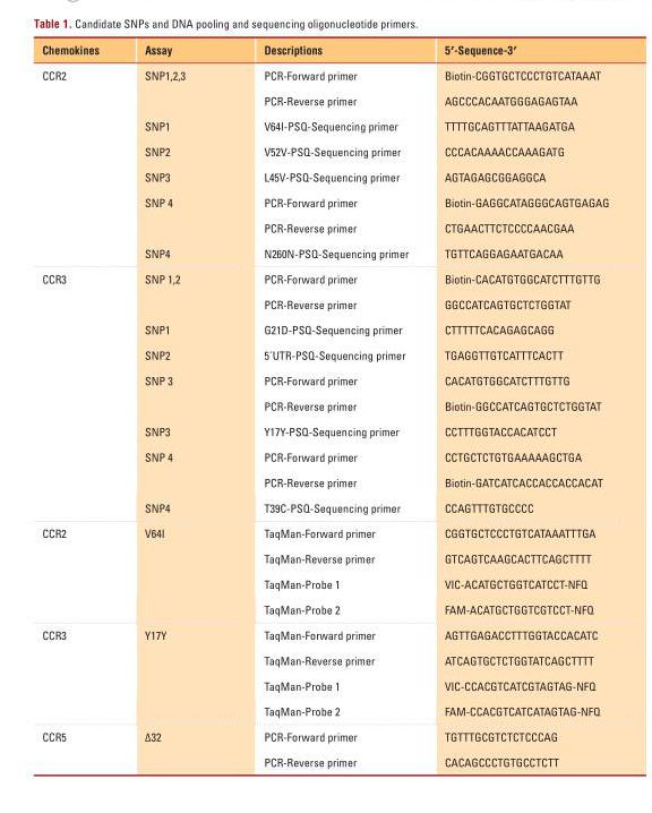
<table><thead><tr><td>Chemokines</td><td>Assay</td><td>Descriptions</td><td>5′-Sequence-3′</td></tr></thead><tbody><tr><td rowspan="8">CCR2</td><td>SNP1,2,3</td><td>PCR-Forward primer</td><td>Biotin-CGGTGCTCCCTGTCATAAAT</td></tr><tr><td></td><td>PCR-Reverse primer</td><td>AGCCCACAATGGGAGAGTAA</td></tr><tr><td>SNP1</td><td>V64I-PSQ-Sequencing primer</td><td>TTTTGCAGTTTATTAAGATGA</td></tr><tr><td>SNP2</td><td>V52V-PSQ-Sequencing primer</td><td>CCCACAAAACCAAAGATG</td></tr><tr><td>SNP3</td><td>L45V-PSQ-Sequencing primer</td><td>AGTAGAGCGGAGGCA</td></tr><tr><td>SNP 4</td><td>PCR-Forward primer</td><td>Biotin-GAGGCATAGGGCAGTGAGAG</td></tr><tr><td></td><td>PCR-Reverse primer</td><td>CTGAACTTCTCCCCAACGAA</td></tr><tr><td>SNP4</td><td>N260N-PSQ-Sequencing primer</td><td>TGTTCAGGAGAATGACAA</td></tr><tr><td rowspan="10">CCR3</td><td>SNP 1,2</td><td>PCR-Forward primer</td><td>Biotin-CACATGTGGCATCTTTGTTG</td></tr><tr><td></td><td>PCR-Reverse primer</td><td>GGCCATCAGTGCTCTGGTAT</td></tr><tr><td>SNP1</td><td>G21D-PSQ-Sequencing primer</td><td>CTTTTTCACAGAGCAGG</td></tr><tr><td>SNP2</td><td>5´UTR-PSQ-Sequencing primer</td><td>TGAGGTTGTCATTTCACTT</td></tr><tr><td>SNP 3</td><td>PCR-Forward primer</td><td>CACATGTGGCATCTTTGTTG</td></tr><tr><td></td><td>PCR-Reverse primer</td><td>Biotin-GGCCATCAGTGCTCTGGTAT</td></tr><tr><td>SNP3</td><td>Y17Y-PSQ-Sequencing primer</td><td>CCTTTGGTACCACATCCT</td></tr><tr><td>SNP 4</td><td>PCR-Forward primer</td><td>CCTGCTCTGTGAAAAAGCTGA</td></tr><tr><td></td><td>PCR-Reverse primer</td><td>Biotin-GATCATCACCACCACCACAT</td></tr><tr><td>SNP4</td><td>T39C-PSQ-Sequencing primer</td><td>CCAGTTTGTGCCCC</td></tr><tr><td rowspan="4">CCR2</td><td>V64I</td><td>TaqMan-Forward primer</td><td>CGGTGCTCCCTGTCATAAATTTGA</td></tr><tr><td></td><td>TaqMan-Reverse primer</td><td>GTCAGTCAAGCACTTCAGCTTTT</td></tr><tr><td></td><td>TaqMan-Probe 1</td><td>VIC-ACATGCTGGTCATCCT-NFQ</td></tr><tr><td></td><td>TaqMan-Probe 2</td><td>FAM-ACATGCTGGTCGTCCT-NFQ</td></tr><tr><td rowspan="4">CCR3</td><td>Y17Y</td><td>TaqMan-Forward primer</td><td>AGTTGAGACCTTTGGTACCACATC</td></tr><tr><td></td><td>TaqMan-Reverse primer</td><td>ATCAGTGCTCTGGTATCAGCTTTT</td></tr><tr><td></td><td>TaqMan-Probe 1</td><td>VIC-CCACGTCATCGTAGTAG-NFQ</td></tr><tr><td></td><td>TaqMan-Probe 2</td><td>FAM-CCACGTCATCATAGTAG-NFQ</td></tr><tr><td rowspan="2">CCR5</td><td>Δ32</td><td>PCR-Forward primer</td><td>TGTTTGCGTCTCTCCCAG</td></tr><tr><td></td><td>PCR-Reverse primer</td><td>CACAGCCCTGTGCCTCTT</td></tr></tbody></table>